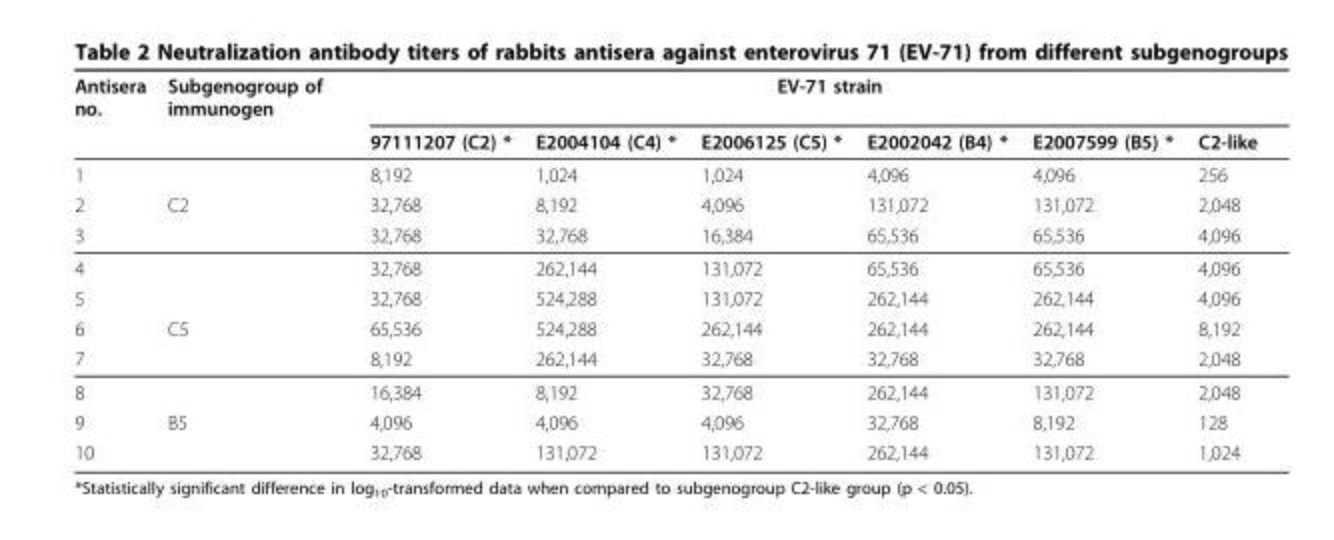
<table><thead><tr><td rowspan="2">Antisera no.</td><td rowspan="2">Subgenogroup of immunogen</td><td colspan="6">EV-71 strain</td></tr><tr><td>97111207 (C2) *</td><td>E2004104 (C4) *</td><td>E2006125 (C5) *</td><td>E2002042 (B4) *</td><td>E2007599 (B5) *</td><td>C2-like</td></tr></thead><tbody><tr><td>1</td><td></td><td>8,192</td><td>1,024</td><td>1,024</td><td>4,096</td><td>4,096</td><td>256</td></tr><tr><td>2</td><td>C2</td><td>32,768</td><td>8,192</td><td>4,096</td><td>131,072</td><td>131,072</td><td>2,048</td></tr><tr><td>3</td><td></td><td>32,768</td><td>32,768</td><td>16,384</td><td>65,536</td><td>65,536</td><td>4,096</td></tr><tr><td>4</td><td></td><td>32,768</td><td>262,144</td><td>131,072</td><td>65,536</td><td>65,536</td><td>4,096</td></tr><tr><td>5</td><td></td><td>32,768</td><td>524,288</td><td>131,072</td><td>262,144</td><td>262,144</td><td>4,096</td></tr><tr><td>6</td><td>C5</td><td>65,536</td><td>524,288</td><td>262,144</td><td>262,144</td><td>262,144</td><td>8,192</td></tr><tr><td>7</td><td></td><td>8,192</td><td>262,144</td><td>32,768</td><td>32,768</td><td>32,768</td><td>2,048</td></tr><tr><td>8</td><td></td><td>16,384</td><td>8,192</td><td>32,768</td><td>262,144</td><td>131,072</td><td>2,048</td></tr><tr><td>9</td><td>B5</td><td>4,096</td><td>4,096</td><td>4,096</td><td>32,768</td><td>8,192</td><td>128</td></tr><tr><td>10</td><td></td><td>32,768</td><td>131,072</td><td>131,072</td><td>262,144</td><td>131,072</td><td>1,024</td></tr></tbody></table>